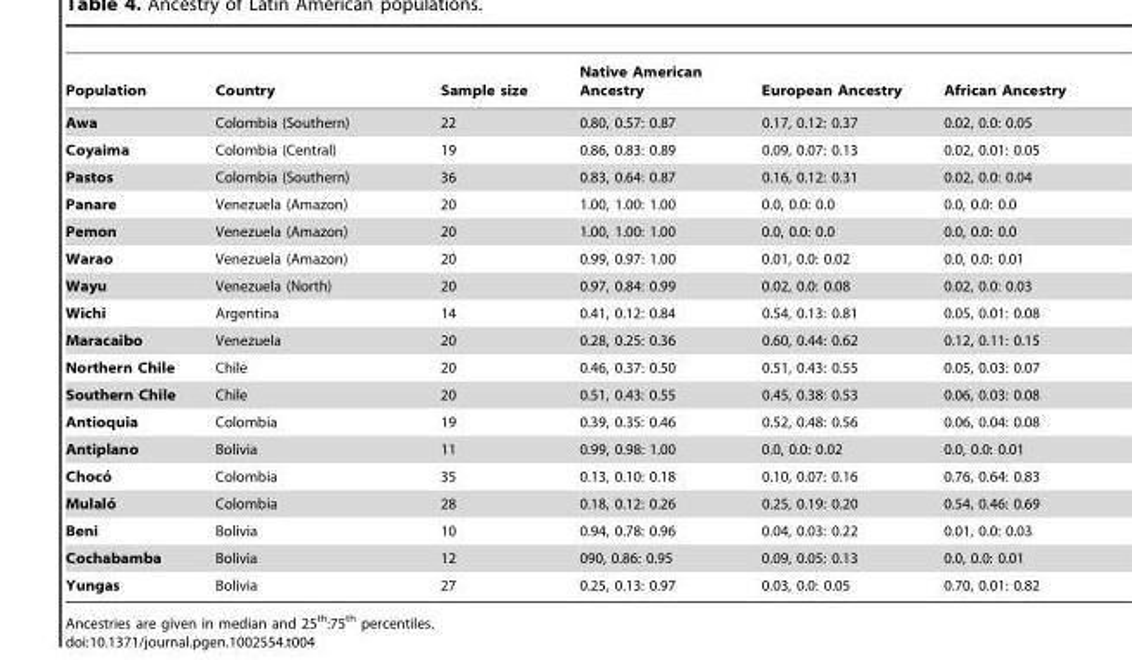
<table><thead><tr><td>Population</td><td>Country</td><td>Sample size</td><td>Native American Ancestry</td><td>European Ancestry</td><td>African Ancestry</td></tr></thead><tbody><tr><td>Awa</td><td>Colombia (Southern)</td><td>22</td><td>0.80, 0.57: 0.87</td><td>0.17, 0.12: 0.37</td><td>0.02, 0.0: 0.05</td></tr><tr><td>Coyaima</td><td>Colombia (Central)</td><td>19</td><td>0.86, 0.83: 0.89</td><td>0.09, 0.07: 0.13</td><td>0.02, 0.01: 0.05</td></tr><tr><td>Pastos</td><td>Colombia (Southern)</td><td>36</td><td>0.83, 0.64: 0.87</td><td>0.16, 0.12: 0.31</td><td>0.02, 0.0: 0.04</td></tr><tr><td>Panare</td><td>Venezuela (Amazon)</td><td>20</td><td>1.00, 1.00: 1.00</td><td>0.0, 0.0: 0.0</td><td>0.0, 0.0: 0.0</td></tr><tr><td>Pemon</td><td>Venezuela (Amazon)</td><td>20</td><td>1.00, 1.00: 1.00</td><td>0.0, 0.0: 0.0</td><td>0.0, 0.0: 0.0</td></tr><tr><td>Warao</td><td>Venezuela (Amazon)</td><td>20</td><td>0.99, 0.97: 1.00</td><td>0.01, 0.0: 0.02</td><td>0.0, 0.0: 0.01</td></tr><tr><td>Wayu</td><td>Venezuela (North)</td><td>20</td><td>0.97, 0.84: 0.99</td><td>0.02, 0.0: 0.08</td><td>0.02, 0.0: 0.03</td></tr><tr><td>Wichi</td><td>Argentina</td><td>14</td><td>0.41, 0.12: 0.84</td><td>0.54, 0.13: 0.81</td><td>0.05, 0.01: 0.08</td></tr><tr><td>Maracaibo</td><td>Venezuela</td><td>20</td><td>0.28, 0.25: 0.36</td><td>0.60, 0.44: 0.62</td><td>0.12, 0.11: 0.15</td></tr><tr><td>Northern Chile</td><td>Chile</td><td>20</td><td>0.46, 0.37: 0.50</td><td>0.51, 0.43: 0.55</td><td>0.05, 0.03: 0.07</td></tr><tr><td>Southern Chile</td><td>Chile</td><td>20</td><td>0.51, 0.43: 0.55</td><td>0.45, 0.38: 0.53</td><td>0.06, 0.03: 0.08</td></tr><tr><td>Antioquia</td><td>Colombia</td><td>19</td><td>0.39, 0.35: 0.46</td><td>0.52, 0.48: 0.56</td><td>0.06, 0.04: 0.08</td></tr><tr><td>Antiplano</td><td>Bolivia</td><td>11</td><td>0.99, 0.98: 1.00</td><td>0.0, 0.0: 0.02</td><td>0.0, 0.0: 0.01</td></tr><tr><td>Choco´</td><td>Colombia</td><td>35</td><td>0.13, 0.10: 0.18</td><td>0.10, 0.07: 0.16</td><td>0.76, 0.64: 0.83</td></tr><tr><td>Mulalo´</td><td>Colombia</td><td>28</td><td>0.18, 0.12: 0.26</td><td>0.25, 0.19: 0.20</td><td>0.54, 0.46: 0.69</td></tr><tr><td>Beni</td><td>Bolivia</td><td>10</td><td>0.94, 0.78: 0.96</td><td>0.04, 0.03: 0.22</td><td>0.01, 0.0: 0.03</td></tr><tr><td>Cochabamba</td><td>Bolivia</td><td>12</td><td>090, 0.86: 0.95</td><td>0.09, 0.05: 0.13</td><td>0.0, 0.0: 0.01</td></tr><tr><td>Yungas</td><td>Bolivia</td><td>27</td><td>0.25, 0.13: 0.97</td><td>0.03, 0.0: 0.05</td><td>0.70, 0.01: 0.82</td></tr></tbody></table>